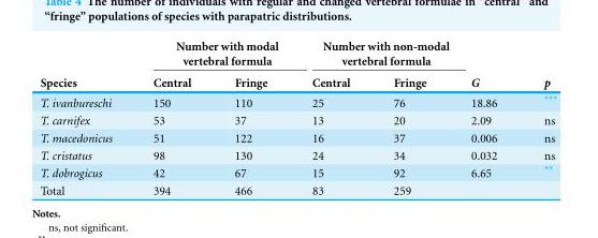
<table><thead><tr><td rowspan="2">Species</td><td colspan="2">Number with modal vertebral formula</td><td colspan="2">Number with non-modal vertebral formula</td><td rowspan="2">G</td><td rowspan="2">p</td></tr><tr><td>Central</td><td>Fringe</td><td>Central</td><td>Fringe</td></tr></thead><tbody><tr><td>T. ivanbureschi</td><td>150</td><td>110</td><td>25</td><td>76</td><td>18.86</td><td>***</td></tr><tr><td>T. carnifex</td><td>53</td><td>37</td><td>13</td><td>20</td><td>2.09</td><td>ns</td></tr><tr><td>T. macedonicus</td><td>51</td><td>122</td><td>16</td><td>37</td><td>0.006</td><td>ns</td></tr><tr><td>T. cristatus</td><td>98</td><td>130</td><td>24</td><td>34</td><td>0.032</td><td>ns</td></tr><tr><td>T. dobrogicus</td><td>42</td><td>67</td><td>15</td><td>92</td><td>6.65</td><td>**</td></tr><tr><td>Total</td><td>394</td><td>466</td><td>83</td><td>259</td><td></td><td></td></tr></tbody></table>